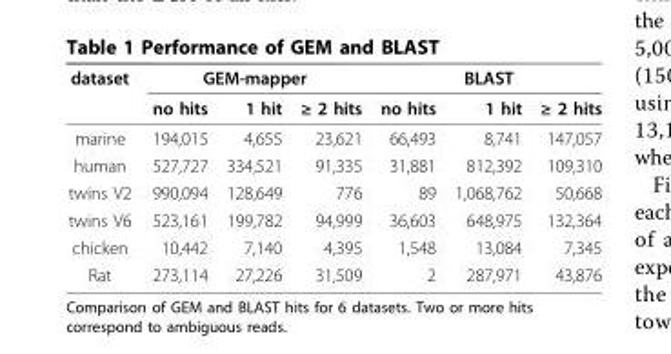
<table><thead><tr><td rowspan="2">dataset</td><td colspan="3">GEM-mapper</td><td colspan="3">BLAST</td></tr><tr><td>no hits</td><td>1 hit</td><td>≥ 2 hits</td><td>no hits</td><td>1 hit</td><td>≥ 2 hits</td></tr></thead><tbody><tr><td>marine</td><td>194,015</td><td>4,655</td><td>23,621</td><td>66,493</td><td>8,741</td><td>147,057</td></tr><tr><td>human</td><td>527,727</td><td>334,521</td><td>91,335</td><td>31,881</td><td>812,392</td><td>109,310</td></tr><tr><td>twins V2</td><td>990,094</td><td>128,649</td><td>776</td><td>89</td><td>1,068,762</td><td>50,668</td></tr><tr><td>twins V6</td><td>523,161</td><td>199,782</td><td>94,999</td><td>36,603</td><td>648,975</td><td>132,364</td></tr><tr><td>chicken</td><td>10,442</td><td>7,140</td><td>4,395</td><td>1,548</td><td>13,084</td><td>7,345</td></tr><tr><td>Rat</td><td>273,114</td><td>27,226</td><td>31,509</td><td>2</td><td>287,971</td><td>43,876</td></tr></tbody></table>